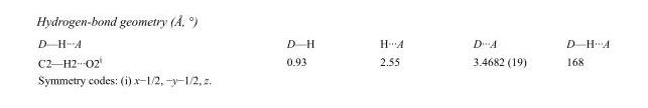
<table><tbody><tr><td>D—H···A</td><td>D—H</td><td>H···A</td><td>D···A</td><td>D—H···A</td></tr><tr><td>C2—H2···O2<sup>i</sup></td><td>0.93</td><td>2.55</td><td>3.4682 (19)</td><td>168</td></tr></tbody></table>